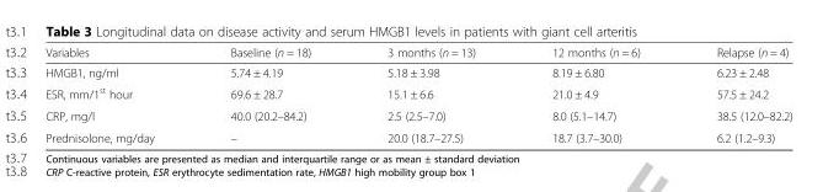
<table><thead><tr><td>Variables</td><td>Baseline (n = 18)</td><td>3 months (n = 13)</td><td>12 months (n = 6)</td><td>Relapse (n = 4)</td></tr></thead><tbody><tr><td>HMGB1, ng/ml</td><td>5.74 ± 4.19</td><td>5.18 ± 3.98</td><td>8.19 ± 6.80</td><td>6.23 ± 2.48</td></tr><tr><td>ESR, mm/1<sup>st</sup> hour</td><td>69.6 ± 28.7</td><td>15.1 ± 6.6</td><td>21.0 ± 4.9</td><td>57.5 ± 24.2</td></tr><tr><td>CRP, mg/l</td><td>40.0 (20.2–84.2)</td><td>2.5 (2.5–7.0)</td><td>8.0 (5.1–14.7)</td><td>38.5 (12.0–82.2)</td></tr><tr><td>Prednisolone, mg/day</td><td>–</td><td>20.0 (18.7–27.5)</td><td>18.7 (3.7–30.0)</td><td>6.2 (1.2–9.3)</td></tr></tbody></table>